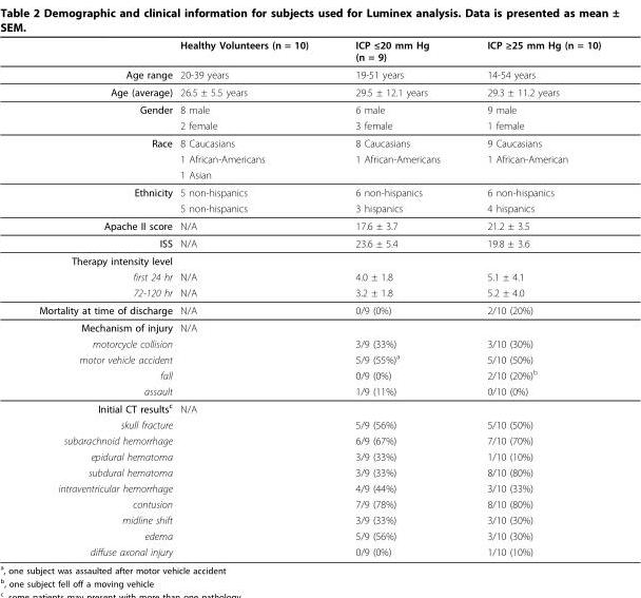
<table><thead><tr><td></td><td>Healthy Volunteers (n = 10)</td><td>ICP ≤20 mm Hg (n = 9)</td><td>ICP ≥25 mm Hg (n = 10)</td></tr></thead><tbody><tr><td>Age range</td><td>20-39 years</td><td>19-51 years</td><td>14-54 years</td></tr><tr><td>Age (average)</td><td>26.5 ± 5.5 years</td><td>29.5 ± 12.1 years</td><td>29.3 ± 11.2 years</td></tr><tr><td rowspan="2">Gender</td><td>8 male</td><td>6 male</td><td>9 male</td></tr><tr><td>2 female</td><td>3 female</td><td>1 female</td></tr><tr><td rowspan="3">Race</td><td>8 Caucasians</td><td>8 Caucasians</td><td>9 Caucasians</td></tr><tr><td>1 African-Americans</td><td>1 African-Americans</td><td>1 African-American</td></tr><tr><td>1 Asian</td><td></td><td></td></tr><tr><td rowspan="2">Ethnicity</td><td>5 non-hispanics</td><td>6 non-hispanics</td><td>6 non-hispanics</td></tr><tr><td>5 non-hispanics</td><td>3 hispanics</td><td>4 hispanics</td></tr><tr><td>Apache II score</td><td>N/A</td><td>17.6 ± 3.7</td><td>21.2 ± 3.5</td></tr><tr><td>ISS</td><td>N/A</td><td>23.6 ± 5.4</td><td>19.8 ± 3.6</td></tr><tr><td colspan="4">Therapy intensity level</td></tr><tr><td>first 24 hr</td><td>N/A</td><td>4.0 ± 1.8</td><td>5.1 ± 4.1</td></tr><tr><td>72-120 hr</td><td>N/A</td><td>3.2 ± 1.8</td><td>5.2 ± 4.0</td></tr><tr><td>Mortality at time of discharge</td><td>N/A</td><td>0/9 (0%)</td><td>2/10 (20%)</td></tr><tr><td>Mechanism of injury</td><td>N/A</td><td></td><td></td></tr><tr><td>motorcycle collision</td><td></td><td>3/9 (33%)</td><td>3/10 (30%)</td></tr><tr><td>motor vehicle accident</td><td></td><td>5/9 (55%)<sup>a</sup></td><td>5/10 (50%)</td></tr><tr><td>fall</td><td></td><td>0/9 (0%)</td><td>2/10 (20%)<sup>b</sup></td></tr><tr><td>assault</td><td></td><td>1/9 (11%)</td><td>0/10 (0%)</td></tr><tr><td>Initial CT results<sup>c</sup></td><td>N/A</td><td></td><td></td></tr><tr><td>skull fracture</td><td></td><td>5/9 (56%)</td><td>5/10 (50%)</td></tr><tr><td>subarachnoid hemorrhage</td><td></td><td>6/9 (67%)</td><td>7/10 (70%)</td></tr><tr><td>epidural hematoma</td><td></td><td>3/9 (33%)</td><td>1/10 (10%)</td></tr><tr><td>subdural hematoma</td><td></td><td>3/9 (33%)</td><td>8/10 (80%)</td></tr><tr><td>intraventricular hemorrhage</td><td></td><td>4/9 (44%)</td><td>3/10 (33%)</td></tr><tr><td>contusion</td><td></td><td>7/9 (78%)</td><td>8/10 (80%)</td></tr><tr><td>midline shift</td><td></td><td>3/9 (33%)</td><td>3/10 (30%)</td></tr><tr><td>edema</td><td></td><td>5/9 (56%)</td><td>3/10 (30%)</td></tr><tr><td>diffuse axonal injury</td><td></td><td>0/9 (0%)</td><td>1/10 (10%)</td></tr></tbody></table>